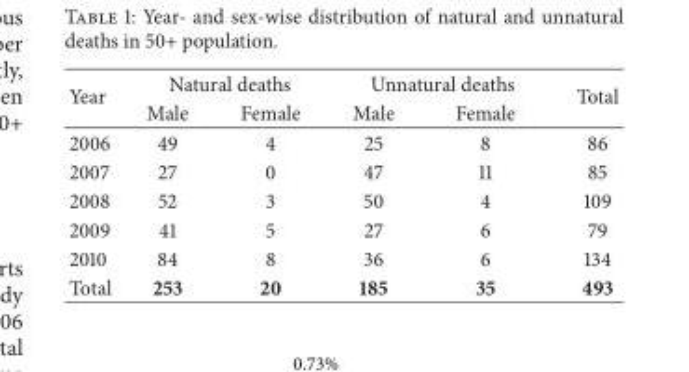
<table><thead><tr><td rowspan="2">Year</td><td colspan="2">Natural deaths</td><td colspan="2">Unnatural deaths</td><td rowspan="2">Total</td></tr><tr><td>Male</td><td>Female</td><td>Male</td><td>Female</td></tr></thead><tbody><tr><td>2006</td><td>49</td><td>4</td><td>25</td><td>8</td><td>86</td></tr><tr><td>2007</td><td>27</td><td>0</td><td>47</td><td>11</td><td>85</td></tr><tr><td>2008</td><td>52</td><td>3</td><td>50</td><td>4</td><td>109</td></tr><tr><td>2009</td><td>41</td><td>5</td><td>27</td><td>6</td><td>79</td></tr><tr><td>2010</td><td>84</td><td>8</td><td>36</td><td>6</td><td>134</td></tr><tr><td>Total</td><td>253</td><td>20</td><td>185</td><td>35</td><td>493</td></tr></tbody></table>